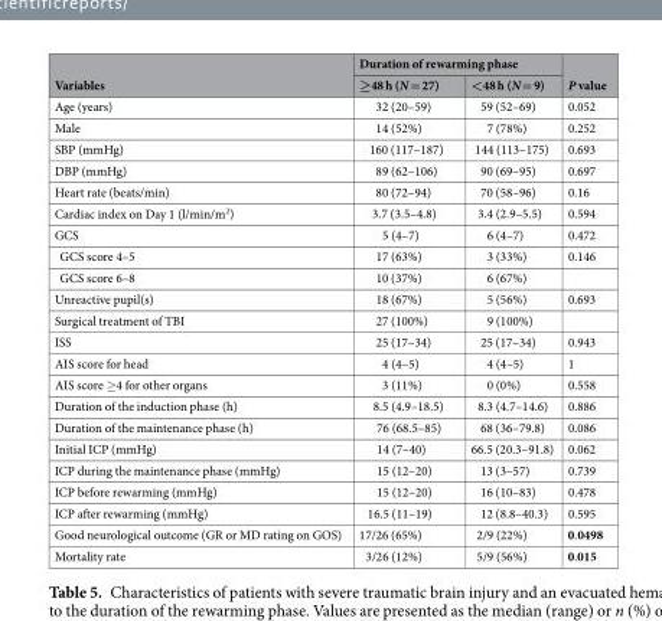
<table><thead><tr><td rowspan="2">Variables</td><td colspan="2">Duration of rewarming phase</td><td rowspan="2">P value</td></tr><tr><td>≥48 h (N = 27)</td><td>&lt;48 h (N = 9)</td></tr></thead><tbody><tr><td>Age (years)</td><td>32 (20–59)</td><td>59 (52–69)</td><td>0.052</td></tr><tr><td>Male</td><td>14 (52%)</td><td>7 (78%)</td><td>0.252</td></tr><tr><td>SBP (mmHg)</td><td>160 (117–187)</td><td>144 (113–175)</td><td>0.693</td></tr><tr><td>DBP (mmHg)</td><td>89 (62–106)</td><td>90 (69–95)</td><td>0.697</td></tr><tr><td>Heart rate (beats/min)</td><td>80 (72–94)</td><td>70 (58–96)</td><td>0.16</td></tr><tr><td>Cardiac index on Day 1 (l/min/m<sup>2</sup>)</td><td>3.7 (3.5–4.8)</td><td>3.4 (2.9–5.5)</td><td>0.594</td></tr><tr><td>GCS</td><td>5 (4–7)</td><td>6 (4–7)</td><td>0.472</td></tr><tr><td>GCS score 4–5</td><td>17 (63%)</td><td>3 (33%)</td><td>0.146</td></tr><tr><td>GCS score 6–8</td><td>10 (37%)</td><td>6 (67%)</td><td></td></tr><tr><td>Unreactive pupil(s)</td><td>18 (67%)</td><td>5 (56%)</td><td>0.693</td></tr><tr><td>Surgical treatment of TBI</td><td>27 (100%)</td><td>9 (100%)</td><td></td></tr><tr><td>ISS</td><td>25 (17–34)</td><td>25 (17–34)</td><td>0.943</td></tr><tr><td>AIS score for head</td><td>4 (4–5)</td><td>4 (4–5)</td><td>1</td></tr><tr><td>AIS score ≥4 for other organs</td><td>3 (11%)</td><td>0 (0%)</td><td>0.558</td></tr><tr><td>Duration of the induction phase (h)</td><td>8.5 (4.9–18.5)</td><td>8.3 (4.7–14.6)</td><td>0.886</td></tr><tr><td>Duration of the maintenance phase (h)</td><td>76 (68.5–85)</td><td>68 (36–79.8)</td><td>0.086</td></tr><tr><td>Initial ICP (mmHg)</td><td>14 (7–40)</td><td>66.5 (20.3–91.8)</td><td>0.062</td></tr><tr><td>ICP during the maintenance phase (mmHg)</td><td>15 (12–20)</td><td>13 (3–57)</td><td>0.739</td></tr><tr><td>ICP before rewarming (mmHg)</td><td>15 (12–20)</td><td>16 (10–83)</td><td>0.478</td></tr><tr><td>ICP after rewarming (mmHg)</td><td>16.5 (11–19)</td><td>12 (8.8–40.3)</td><td>0.595</td></tr><tr><td>Good neurological outcome (GR or MD rating on GOS)</td><td>17/26 (65%)</td><td>2/9 (22%)</td><td>0.0498</td></tr><tr><td>Mortality rate</td><td>3/26 (12%)</td><td>5/9 (56%)</td><td>0.015</td></tr></tbody></table>